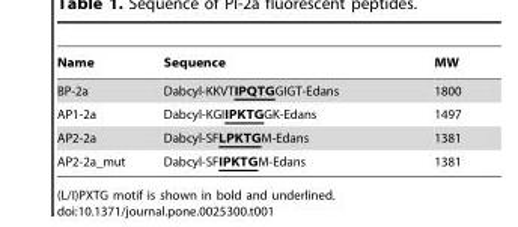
<table><thead><tr><td>Name</td><td>Sequence</td><td>MW</td></tr></thead><tbody><tr><td>BP-2a</td><td>Dabcyl-KKVTIPQTGGIGT-Edans</td><td>1800</td></tr><tr><td>AP1-2a</td><td>Dabcyl-KGIIPKTGGK-Edans</td><td>1497</td></tr><tr><td>AP2-2a</td><td>Dabcyl-SFLPKTGM-Edans</td><td>1381</td></tr><tr><td>AP2-2a_mut</td><td>Dabcyl-SFIPKTGM-Edans</td><td>1381</td></tr></tbody></table>